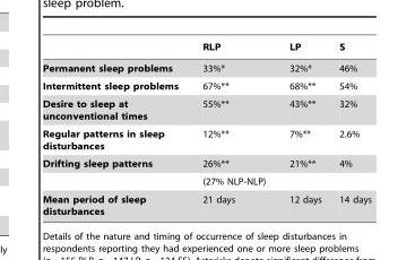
<table><thead><tr><td></td><td>RLP</td><td>LP</td><td>S</td></tr></thead><tbody><tr><td>Permanent sleep problems</td><td>33%*</td><td>32%*</td><td>46%</td></tr><tr><td>Intermittent sleep problems</td><td>67%**</td><td>68%**</td><td>54%</td></tr><tr><td>Desire to sleep at unconventional times</td><td>55%**</td><td>43%**</td><td>32%</td></tr><tr><td>Regular patterns in sleep disturbances</td><td>12%**</td><td>7%**</td><td>2.6%</td></tr><tr><td rowspan="2">Drifting sleep patterns</td><td>26%**</td><td>21%**</td><td>4%</td></tr><tr><td>(27% NLP-NLP)</td><td></td><td></td></tr><tr><td>Mean period of sleep disturbances</td><td>21 days</td><td>12 days</td><td>14 days</td></tr></tbody></table>